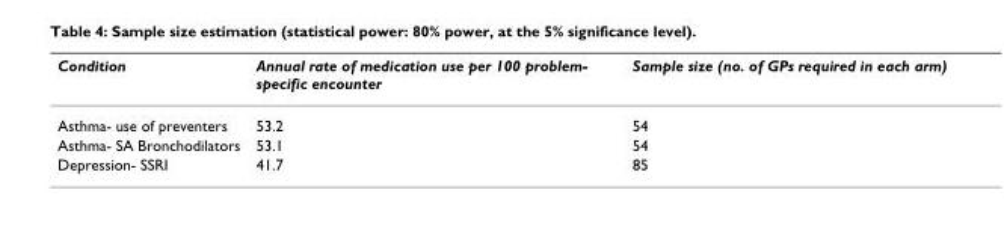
<table><thead><tr><td>Condition</td><td>Annual rate of medication use per 100 problem- specific encounter</td><td>Sample size (no. of GPs required in each arm)</td></tr></thead><tbody><tr><td>Asthma- use of preventers</td><td>53.2</td><td>54</td></tr><tr><td>Asthma- SA Bronchodilators</td><td>53.1</td><td>54</td></tr><tr><td>Depression- SSRI</td><td>41.7</td><td>85</td></tr></tbody></table>